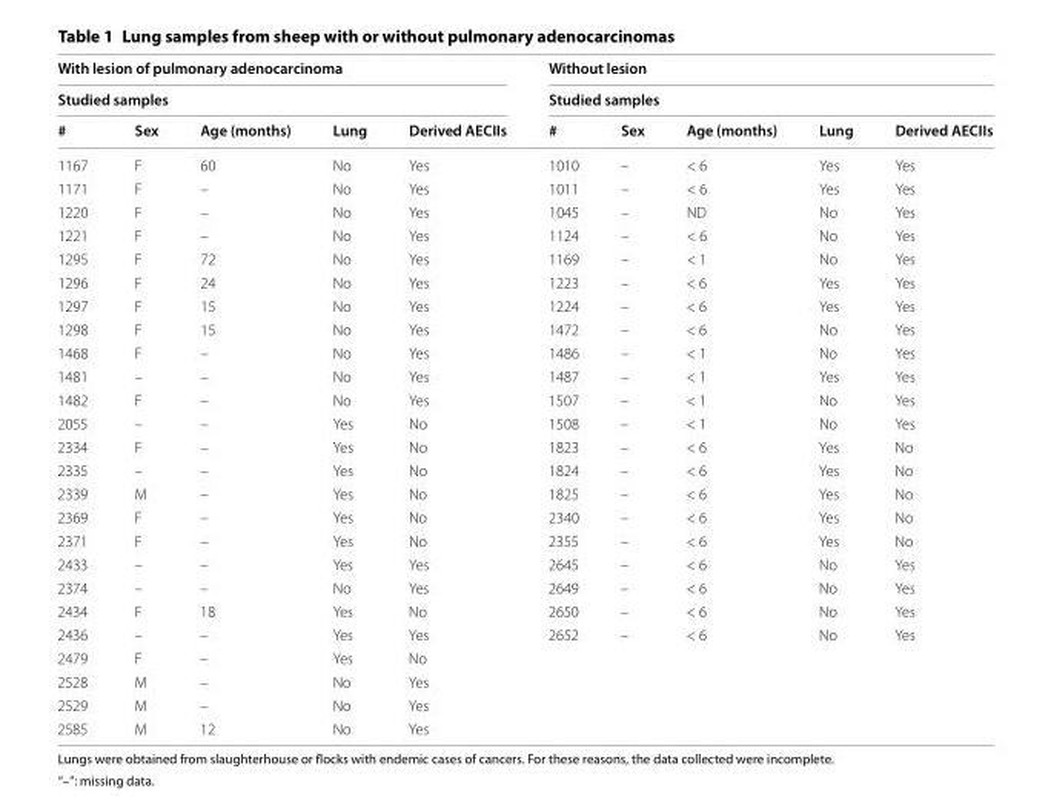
<table><thead><tr><td rowspan="2" colspan="5">With lesion of pulmonary adenocarcinoma Studied samples</td><td rowspan="2" colspan="5">Without lesion Studied samples</td></tr><tr></tr><tr><td>#</td><td>Sex</td><td>Age (months)</td><td>Lung</td><td>Derived AECIIs</td><td>#</td><td>Sex</td><td>Age (months)</td><td>Lung</td><td>Derived AECIIs</td></tr></thead><tbody><tr><td>1167</td><td>F</td><td>60</td><td>No</td><td>Yes</td><td>1010</td><td>–</td><td>&lt; 6</td><td>Yes</td><td>Yes</td></tr><tr><td>1171</td><td>F</td><td>–</td><td>No</td><td>Yes</td><td>1011</td><td>–</td><td>&lt; 6</td><td>Yes</td><td>Yes</td></tr><tr><td>1220</td><td>F</td><td>–</td><td>No</td><td>Yes</td><td>1045</td><td>–</td><td>ND</td><td>No</td><td>Yes</td></tr><tr><td>1221</td><td>F</td><td>–</td><td>No</td><td>Yes</td><td>1124</td><td>–</td><td>&lt; 6</td><td>No</td><td>Yes</td></tr><tr><td>1295</td><td>F</td><td>72</td><td>No</td><td>Yes</td><td>1169</td><td>–</td><td>&lt; 1</td><td>No</td><td>Yes</td></tr><tr><td>1296</td><td>F</td><td>24</td><td>No</td><td>Yes</td><td>1223</td><td>–</td><td>&lt; 6</td><td>Yes</td><td>Yes</td></tr><tr><td>1297</td><td>F</td><td>15</td><td>No</td><td>Yes</td><td>1224</td><td>–</td><td>&lt; 6</td><td>Yes</td><td>Yes</td></tr><tr><td>1298</td><td>F</td><td>15</td><td>No</td><td>Yes</td><td>1472</td><td>–</td><td>&lt; 6</td><td>No</td><td>Yes</td></tr><tr><td>1468</td><td>F</td><td>–</td><td>No</td><td>Yes</td><td>1486</td><td>–</td><td>&lt; 1</td><td>No</td><td>Yes</td></tr><tr><td>1481</td><td>–</td><td>–</td><td>No</td><td>Yes</td><td>1487</td><td>–</td><td>&lt; 1</td><td>Yes</td><td>Yes</td></tr><tr><td>1482</td><td>F</td><td>–</td><td>No</td><td>Yes</td><td>1507</td><td>–</td><td>&lt; 1</td><td>No</td><td>Yes</td></tr><tr><td>2055</td><td>–</td><td>–</td><td>Yes</td><td>No</td><td>1508</td><td>–</td><td>&lt; 1</td><td>No</td><td>Yes</td></tr><tr><td>2334</td><td>F</td><td>–</td><td>Yes</td><td>No</td><td>1823</td><td>–</td><td>&lt; 6</td><td>Yes</td><td>No</td></tr><tr><td>2335</td><td>–</td><td>–</td><td>Yes</td><td>No</td><td>1824</td><td>–</td><td>&lt; 6</td><td>Yes</td><td>No</td></tr><tr><td>2339</td><td>M</td><td>–</td><td>Yes</td><td>No</td><td>1825</td><td>–</td><td>&lt; 6</td><td>Yes</td><td>No</td></tr><tr><td>2369</td><td>F</td><td>–</td><td>Yes</td><td>No</td><td>2340</td><td>–</td><td>&lt; 6</td><td>Yes</td><td>No</td></tr><tr><td>2371</td><td>F</td><td>–</td><td>Yes</td><td>No</td><td>2355</td><td>–</td><td>&lt; 6</td><td>Yes</td><td>No</td></tr><tr><td>2433</td><td>–</td><td>–</td><td>Yes</td><td>Yes</td><td>2645</td><td>–</td><td>&lt; 6</td><td>No</td><td>Yes</td></tr><tr><td>2374</td><td>–</td><td>–</td><td>No</td><td>Yes</td><td>2649</td><td>–</td><td>&lt; 6</td><td>No</td><td>Yes</td></tr><tr><td>2434</td><td>F</td><td>18</td><td>Yes</td><td>No</td><td>2650</td><td>–</td><td>&lt; 6</td><td>No</td><td>Yes</td></tr><tr><td>2436</td><td>–</td><td>–</td><td>Yes</td><td>Yes</td><td>2652</td><td>–</td><td>&lt; 6</td><td>No</td><td>Yes</td></tr><tr><td>2479</td><td>F</td><td>–</td><td>Yes</td><td>No</td><td></td><td></td><td></td><td></td><td></td></tr><tr><td>2528</td><td>M</td><td>–</td><td>No</td><td>Yes</td><td></td><td></td><td></td><td></td><td></td></tr><tr><td>2529</td><td>M</td><td>–</td><td>No</td><td>Yes</td><td></td><td></td><td></td><td></td><td></td></tr><tr><td>2585</td><td>M</td><td>12</td><td>No</td><td>Yes</td><td></td><td></td><td></td><td></td><td></td></tr></tbody></table>